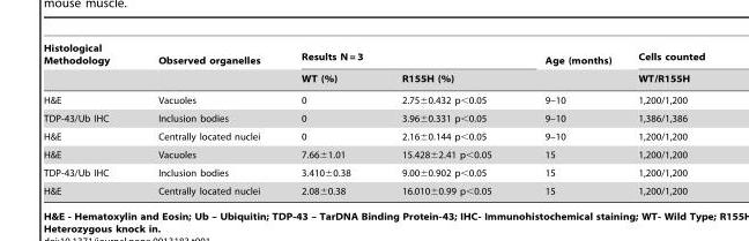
<table><thead><tr><td rowspan="2">Histological Methodology</td><td rowspan="2">Observed organelles</td><td colspan="2">Results N = 3</td><td rowspan="2">Age (months)</td><td rowspan="2">Cells counted WT/R155H</td></tr><tr><td>WT (%)</td><td>R155H (%)</td></tr></thead><tbody><tr><td>H&amp;E</td><td>Vacuoles</td><td>0</td><td>2.75±0.432 p&lt;0.05</td><td>9–10</td><td>1,200/1,200</td></tr><tr><td>TDP-43/Ub IHC</td><td>Inclusion bodies</td><td>0</td><td>3.96±0.331 p&lt;0.05</td><td>9–10</td><td>1,386/1,386</td></tr><tr><td>H&amp;E</td><td>Centrally located nuclei</td><td>0</td><td>2.16±0.144 p&lt;0.05</td><td>9–10</td><td>1,200/1,200</td></tr><tr><td>H&amp;E</td><td>Vacuoles</td><td>7.66±1.01</td><td>15.428±2.41 p&lt;0.05</td><td>15</td><td>1,200/1,200</td></tr><tr><td>TDP-43/Ub IHC</td><td>Inclusion bodies</td><td>3.410±0.38</td><td>9.00±0.902 p&lt;0.05</td><td>15</td><td>1,200/1,200</td></tr><tr><td>H&amp;E</td><td>Centrally located nuclei</td><td>2.08±0.38</td><td>16.010±0.99 p&lt;0.05</td><td>15</td><td>1,200/1,200</td></tr></tbody></table>